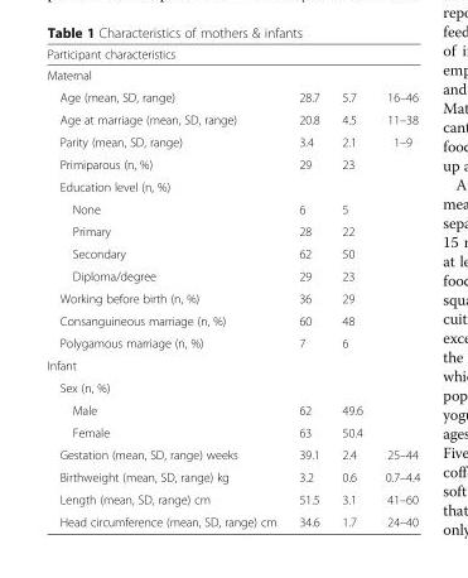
<table><thead><tr><td>Participant characteristics</td><td></td><td></td><td></td></tr></thead><tbody><tr><td colspan="4">Maternal</td></tr><tr><td>Age (mean, SD, range)</td><td>28.7</td><td>5.7</td><td>16–46</td></tr><tr><td>Age at marriage (mean, SD, range)</td><td>20.8</td><td>4.5</td><td>11–38</td></tr><tr><td>Parity (mean, SD, range)</td><td>3.4</td><td>2.1</td><td>1–9</td></tr><tr><td>Primiparous (n, %)</td><td>29</td><td>23</td><td></td></tr><tr><td colspan="4">Education level (n, %)</td></tr><tr><td>None</td><td>6</td><td>5</td><td></td></tr><tr><td>Primary</td><td>28</td><td>22</td><td></td></tr><tr><td>Secondary</td><td>62</td><td>50</td><td></td></tr><tr><td>Diploma/degree</td><td>29</td><td>23</td><td></td></tr><tr><td>Working before birth (n, %)</td><td>36</td><td>29</td><td></td></tr><tr><td>Consanguineous marriage (n, %)</td><td>60</td><td>48</td><td></td></tr><tr><td>Polygamous marriage (n, %)</td><td>7</td><td>6</td><td></td></tr><tr><td colspan="4">Infant</td></tr><tr><td colspan="4">Sex (n, %)</td></tr><tr><td>Male</td><td>62</td><td>49.6</td><td></td></tr><tr><td>Female</td><td>63</td><td>50.4</td><td></td></tr><tr><td>Gestation (mean, SD, range) weeks</td><td>39.1</td><td>2.4</td><td>25–44</td></tr><tr><td>Birthweight (mean, SD, range) kg</td><td>3.2</td><td>0.6</td><td>0.7–4.4</td></tr><tr><td>Length (mean, SD, range) cm</td><td>51.5</td><td>3.1</td><td>41–60</td></tr><tr><td>Head circumference (mean, SD, range) cm</td><td>34.6</td><td>1.7</td><td>24–40</td></tr></tbody></table>